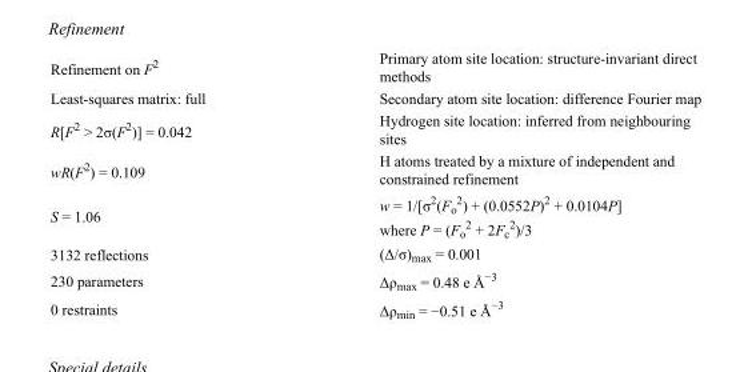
<table><tbody><tr><td>Refinement on F<sup>2</sup></td><td>Primary atom site location: structure-invariant direct methods</td></tr><tr><td>Least-squares matrix: full</td><td>Secondary atom site location: difference Fourier map</td></tr><tr><td>R[F<sup>2</sup> &gt; 2σ(F<sup>2</sup>)] = 0.042</td><td>Hydrogen site location: inferred from neighbouring sites</td></tr><tr><td>wR(F<sup>2</sup>) = 0.109</td><td>H atoms treated by a mixture of independent and constrained refinement</td></tr><tr><td>S = 1.06</td><td>w = 1/[σ<sup>2</sup>(F<sub>o</sub> <sup>2</sup>) + (0.0552P)<sup>2</sup> + 0.0104P] where P = (F<sub>o</sub> <sup>2</sup> + 2F<sub>c</sub> <sup>2</sup>)/3</td></tr><tr><td>3132 reflections</td><td>(Δ/σ)<sub>max</sub> = 0.001</td></tr><tr><td>230 parameters</td><td>Δρ<sub>max</sub> = 0.48 e Å<sup>−3</sup></td></tr><tr><td>0 restraints</td><td>Δρ<sub>min</sub> = −0.51 e Å<sup>−3</sup></td></tr></tbody></table>